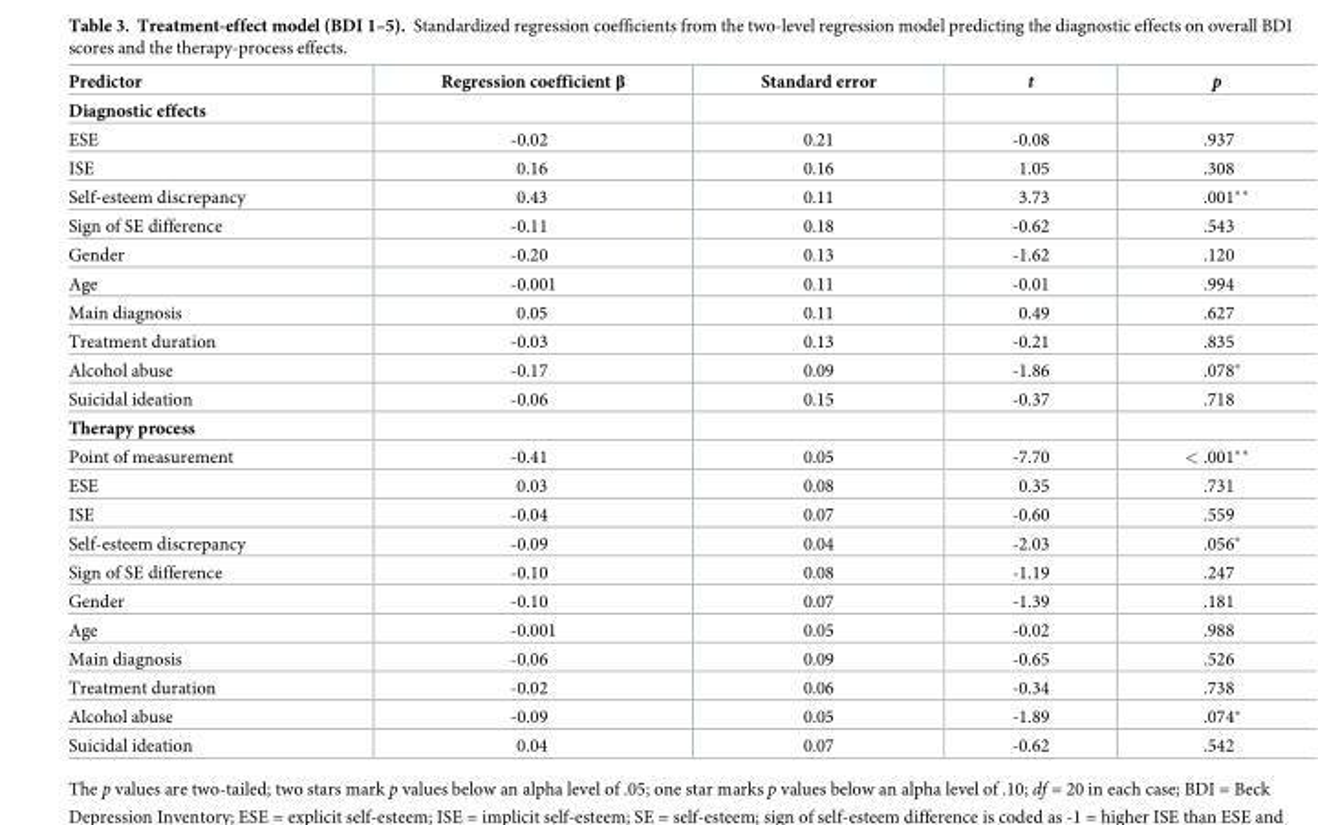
<table><thead><tr><td>Predictor</td><td>Regression coefficient β</td><td>Standard error</td><td>t</td><td>p</td></tr></thead><tbody><tr><td colspan="5">Diagnostic effects</td></tr><tr><td>ESE</td><td>-0.02</td><td>0.21</td><td>-0.08</td><td>.937</td></tr><tr><td>ISE</td><td>0.16</td><td>0.16</td><td>1.05</td><td>.308</td></tr><tr><td>Self-esteem discrepancy</td><td>0.43</td><td>0.11</td><td>3.73</td><td>.001**</td></tr><tr><td>Sign of SE difference</td><td>-0.11</td><td>0.18</td><td>-0.62</td><td>.543</td></tr><tr><td>Gender</td><td>-0.20</td><td>0.13</td><td>-1.62</td><td>.120</td></tr><tr><td>Age</td><td>-0.001</td><td>0.11</td><td>-0.01</td><td>.994</td></tr><tr><td>Main diagnosis</td><td>0.05</td><td>0.11</td><td>0.49</td><td>.627</td></tr><tr><td>Treatment duration</td><td>-0.03</td><td>0.13</td><td>-0.21</td><td>.835</td></tr><tr><td>Alcohol abuse</td><td>-0.17</td><td>0.09</td><td>-1.86</td><td>.078*</td></tr><tr><td>Suicidal ideation</td><td>-0.06</td><td>0.15</td><td>-0.37</td><td>.718</td></tr><tr><td colspan="5">Therapy process</td></tr><tr><td>Point of measurement</td><td>-0.41</td><td>0.05</td><td>-7.70</td><td>&lt; .001**</td></tr><tr><td>ESE</td><td>0.03</td><td>0.08</td><td>0.35</td><td>.731</td></tr><tr><td>ISE</td><td>-0.04</td><td>0.07</td><td>-0.60</td><td>.559</td></tr><tr><td>Self-esteem discrepancy</td><td>-0.09</td><td>0.04</td><td>-2.03</td><td>.056*</td></tr><tr><td>Sign of SE difference</td><td>-0.10</td><td>0.08</td><td>-1.19</td><td>.247</td></tr><tr><td>Gender</td><td>-0.10</td><td>0.07</td><td>-1.39</td><td>.181</td></tr><tr><td>Age</td><td>-0.001</td><td>0.05</td><td>-0.02</td><td>.988</td></tr><tr><td>Main diagnosis</td><td>-0.06</td><td>0.09</td><td>-0.65</td><td>.526</td></tr><tr><td>Treatment duration</td><td>-0.02</td><td>0.06</td><td>-0.34</td><td>.738</td></tr><tr><td>Alcohol abuse</td><td>-0.09</td><td>0.05</td><td>-1.89</td><td>.074*</td></tr><tr><td>Suicidal ideation</td><td>0.04</td><td>0.07</td><td>-0.62</td><td>.542</td></tr></tbody></table>